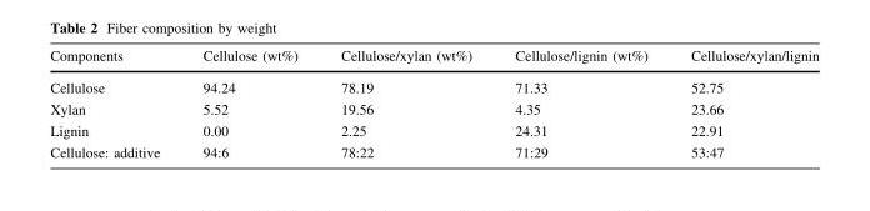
<table><thead><tr><td>Components</td><td>Cellulose (wt%)</td><td>Cellulose/xylan (wt%)</td><td>Cellulose/lignin (wt%)</td><td>Cellulose/xylan/lignin</td></tr></thead><tbody><tr><td>Cellulose</td><td>94.24</td><td>78.19</td><td>71.33</td><td>52.75</td></tr><tr><td>Xylan</td><td>5.52</td><td>19.56</td><td>4.35</td><td>23.66</td></tr><tr><td>Lignin</td><td>0.00</td><td>2.25</td><td>24.31</td><td>22.91</td></tr><tr><td>Cellulose: additive</td><td>94:6</td><td>78:22</td><td>71:29</td><td>53:47</td></tr></tbody></table>